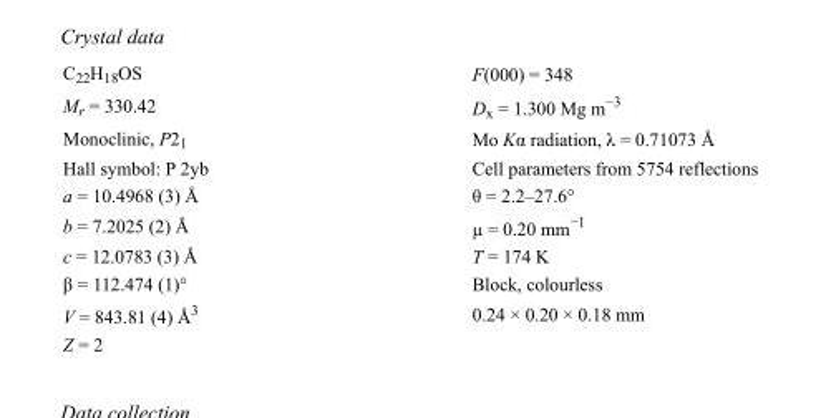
<table><tbody><tr><td>C<sub>22</sub>H<sub>18</sub>OS</td><td>F(000) = 348</td></tr><tr><td>M<sub>r</sub> = 330.42</td><td>D<sub>x</sub> = 1.300 Mg m<sup>−3</sup></td></tr><tr><td>Monoclinic, P2<sub>1</sub></td><td>Mo Kα radiation, λ = 0.71073 Å</td></tr><tr><td>Hall symbol: P 2yb</td><td>Cell parameters from 5754 reflections</td></tr><tr><td>a = 10.4968 (3) Å</td><td>θ = 2.2–27.6°</td></tr><tr><td>b = 7.2025 (2) Å</td><td>µ = 0.20 mm<sup>−1</sup></td></tr><tr><td>c = 12.0783 (3) Å</td><td>T = 174 K</td></tr><tr><td>β = 112.474 (1)°</td><td>Block, colourless</td></tr><tr><td>V = 843.81 (4) Å<sup>3</sup></td><td>0.24 × 0.20 × 0.18 mm</td></tr><tr><td>Z = 2</td><td></td></tr></tbody></table>